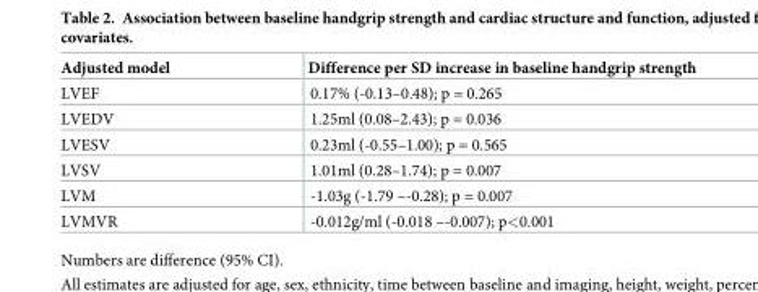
<table><thead><tr><td>Adjusted model</td><td>Difference per SD increase in baseline handgrip strength</td></tr></thead><tbody><tr><td>LVEF</td><td>0.17% (-0.13–0.48); p = 0.265</td></tr><tr><td>LVEDV</td><td>1.25ml (0.08–2.43); p = 0.036</td></tr><tr><td>LVESV</td><td>0.23ml (-0.55–1.00); p = 0.565</td></tr><tr><td>LVSV</td><td>1.01ml (0.28–1.74); p = 0.007</td></tr><tr><td>LVM</td><td>-1.03g (-1.79 –-0.28); p = 0.007</td></tr><tr><td>LVMVR</td><td>-0.012g/ml (-0.018 –-0.007); p&lt;0.001</td></tr></tbody></table>